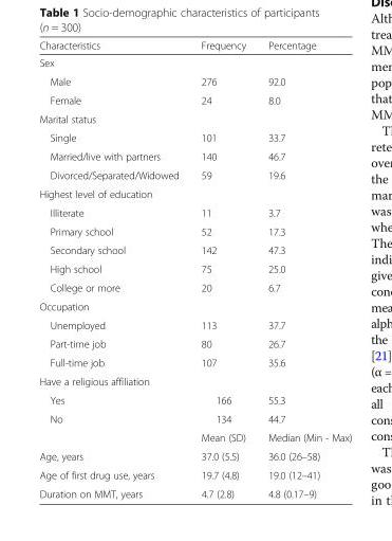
<table><thead><tr><td>Characteristics</td><td>Frequency</td><td>Percentage</td></tr></thead><tbody><tr><td colspan="3">Sex</td></tr><tr><td>Male</td><td>276</td><td>92.0</td></tr><tr><td>Female</td><td>24</td><td>8.0</td></tr><tr><td colspan="3">Marital status</td></tr><tr><td>Single</td><td>101</td><td>33.7</td></tr><tr><td>Married/live with partners</td><td>140</td><td>46.7</td></tr><tr><td>Divorced/Separated/Widowed</td><td>59</td><td>19.6</td></tr><tr><td colspan="3">Highest level of education</td></tr><tr><td>Illiterate</td><td>11</td><td>3.7</td></tr><tr><td>Primary school</td><td>52</td><td>17.3</td></tr><tr><td>Secondary school</td><td>142</td><td>47.3</td></tr><tr><td>High school</td><td>75</td><td>25.0</td></tr><tr><td>College or more</td><td>20</td><td>6.7</td></tr><tr><td colspan="3">Occupation</td></tr><tr><td>Unemployed</td><td>113</td><td>37.7</td></tr><tr><td>Part-time job</td><td>80</td><td>26.7</td></tr><tr><td>Full-time job</td><td>107</td><td>35.6</td></tr><tr><td colspan="3">Have a religious affiliation</td></tr><tr><td>Yes</td><td>166</td><td>55.3</td></tr><tr><td rowspan="2">No</td><td>134</td><td>44.7</td></tr><tr><td>Mean (SD)</td><td>Median (Min - Max)</td></tr><tr><td>Age, years</td><td>37.0 (5.5)</td><td>36.0 (26–58)</td></tr><tr><td>Age of first drug use, years</td><td>19.7 (4.8)</td><td>19.0 (12–41)</td></tr><tr><td>Duration on MMT, years</td><td>4.7 (2.8)</td><td>4.8 (0.17–9)</td></tr></tbody></table>